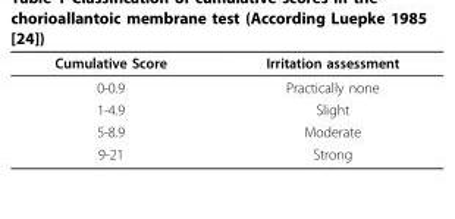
<table><thead><tr><td>Cumulative Score</td><td>Irritation assessment</td></tr></thead><tbody><tr><td>0-0.9</td><td>Practically none</td></tr><tr><td>1-4.9</td><td>Slight</td></tr><tr><td>5-8.9</td><td>Moderate</td></tr><tr><td>9-21</td><td>Strong</td></tr></tbody></table>